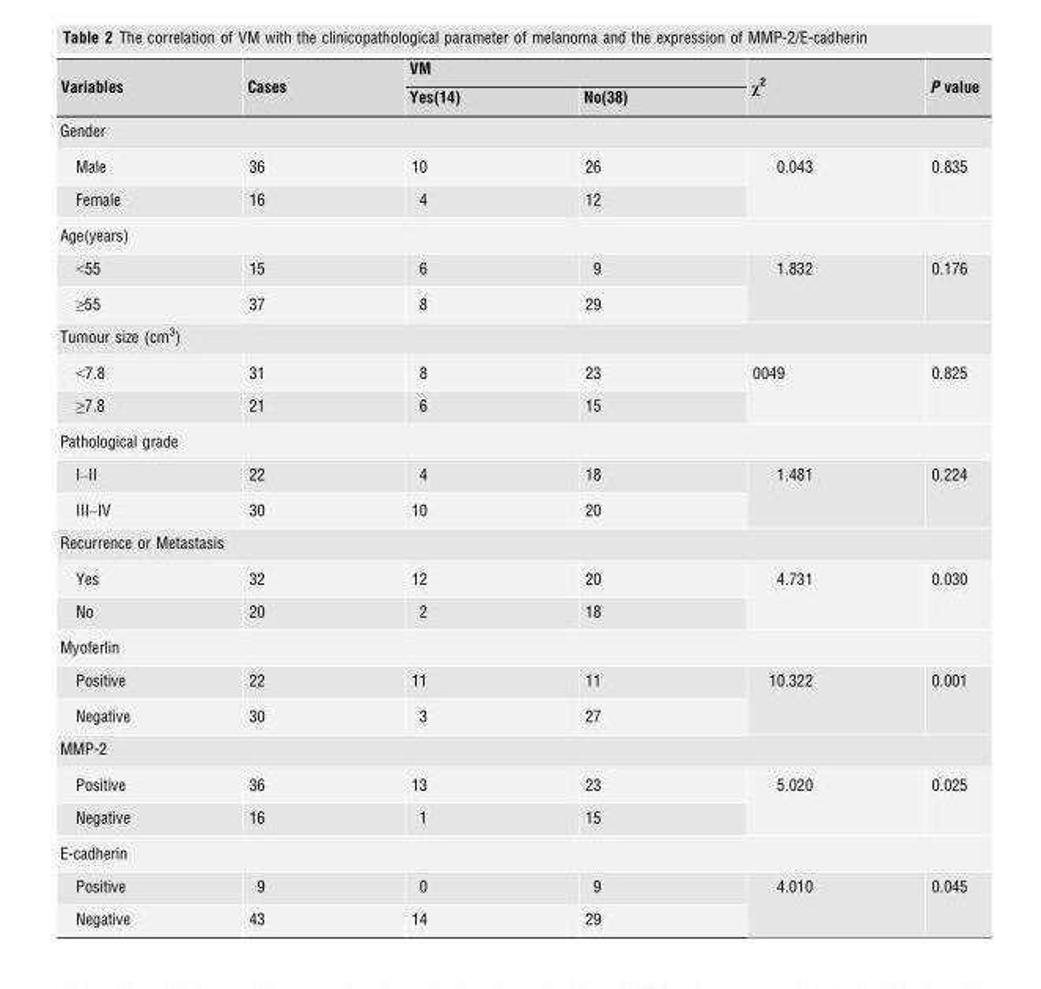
<table><thead><tr><td rowspan="2">Variables</td><td rowspan="2">Cases</td><td colspan="2">VM</td><td rowspan="2">χ<sup>2</sup></td><td rowspan="2">P value</td></tr><tr><td>Yes(14)</td><td>No(38)</td></tr></thead><tbody><tr><td colspan="6">Gender</td></tr><tr><td>Male</td><td>36</td><td>10</td><td>26</td><td rowspan="2">0.043</td><td rowspan="2">0.835</td></tr><tr><td>Female</td><td>16</td><td>4</td><td>12</td></tr><tr><td colspan="6">Age(years)</td></tr><tr><td>&lt;55</td><td>15</td><td>6</td><td>9</td><td rowspan="2">1.832</td><td rowspan="2">0.176</td></tr><tr><td>≥55</td><td>37</td><td>8</td><td>29</td></tr><tr><td colspan="6">Tumour size (cm<sup>3</sup>)</td></tr><tr><td>&lt;7.8</td><td>31</td><td>8</td><td>23</td><td rowspan="2">0049</td><td rowspan="2">0.825</td></tr><tr><td>≥7.8</td><td>21</td><td>6</td><td>15</td></tr><tr><td colspan="6">Pathological grade</td></tr><tr><td>I–II</td><td>22</td><td>4</td><td>18</td><td rowspan="2">1.481</td><td rowspan="2">0.224</td></tr><tr><td>III–IV</td><td>30</td><td>10</td><td>20</td></tr><tr><td colspan="6">Recurrence or Metastasis</td></tr><tr><td>Yes</td><td>32</td><td>12</td><td>20</td><td rowspan="2">4.731</td><td rowspan="2">0.030</td></tr><tr><td>No</td><td>20</td><td>2</td><td>18</td></tr><tr><td colspan="6">Myoferlin</td></tr><tr><td>Positive</td><td>22</td><td>11</td><td>11</td><td rowspan="2">10.322</td><td rowspan="2">0.001</td></tr><tr><td>Negative</td><td>30</td><td>3</td><td>27</td></tr><tr><td colspan="6">MMP-2</td></tr><tr><td>Positive</td><td>36</td><td>13</td><td>23</td><td rowspan="2">5.020</td><td rowspan="2">0.025</td></tr><tr><td>Negative</td><td>16</td><td>1</td><td>15</td></tr><tr><td colspan="6">E-cadherin</td></tr><tr><td>Positive</td><td>9</td><td>0</td><td>9</td><td rowspan="2">4.010</td><td rowspan="2">0.045</td></tr><tr><td>Negative</td><td>43</td><td>14</td><td>29</td></tr></tbody></table>